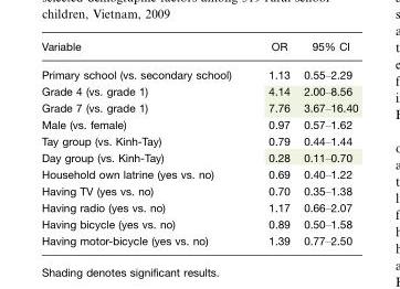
<table><thead><tr><td>Variable</td><td>OR</td><td>95% CI</td></tr></thead><tbody><tr><td>Primary school (vs. secondary school)</td><td>1.13</td><td>0.55–2.29</td></tr><tr><td>Grade 4 (vs. grade 1)</td><td>4.14</td><td>2.00–8.56</td></tr><tr><td>Grade 7 (vs. grade 1)</td><td>7.76</td><td>3.67–16.40</td></tr><tr><td>Male (vs. female)</td><td>0.97</td><td>0.57–1.62</td></tr><tr><td>Tay group (vs. Kinh-Tay)</td><td>0.79</td><td>0.44–1.44</td></tr><tr><td>Day group (vs. Kinh-Tay)</td><td>0.28</td><td>0.11–0.70</td></tr><tr><td>Household own latrine (yes vs. no)</td><td>0.69</td><td>0.40–1.22</td></tr><tr><td>Having TV (yes vs. no)</td><td>0.70</td><td>0.35–1.38</td></tr><tr><td>Having radio (yes vs. no)</td><td>1.17</td><td>0.66–2.07</td></tr><tr><td>Having bicycle (yes vs. no)</td><td>0.89</td><td>0.50–1.58</td></tr><tr><td>Having motor-bicycle (yes vs. no)</td><td>1.39</td><td>0.77–2.50</td></tr></tbody></table>